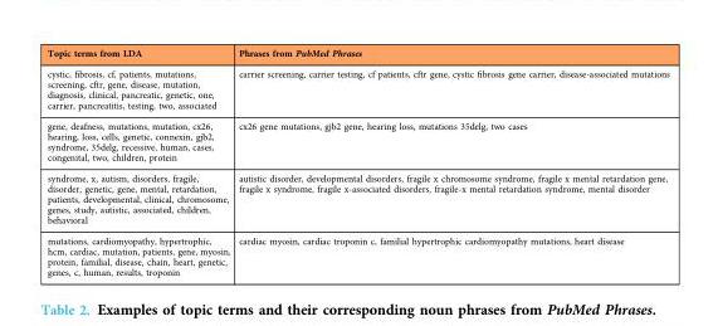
<table><thead><tr><td>Topic terms from LDA</td><td>Phrases from PubMed Phrases</td></tr></thead><tbody><tr><td>cystic, fibrosis, cf, patients, mutations, screening, cftr, gene, disease, mutation, diagnosis, clinical, pancreatic, genetic, one, carrier, pancreatitis, testing, two, associated</td><td>carrier screening, carrier testing, cf patients, cftr gene, cystic fibrosis gene carrier, disease-associated mutations</td></tr><tr><td>gene, deafness, mutations, mutation, cx26, hearing, loss, cells, genetic, connexin, gjb2, syndrome, 35delg, recessive, human, cases, congenital, two, children, protein</td><td>cx26 gene mutations, gjb2 gene, hearing loss, mutations 35delg, two cases</td></tr><tr><td>syndrome, x, autism, disorders, fragile, disorder, genetic, gene, mental, retardation, patients, developmental, clinical, chromosome, genes, study, autistic, associated, children, behavioral</td><td>autistic disorder, developmental disorders, fragile x chromosome syndrome, fragile x mental retardation gene, fragile x syndrome, fragile x-associated disorders, fragile-x mental retardation syndrome, mental disorder</td></tr><tr><td>mutations, cardiomyopathy, hypertrophic, hcm, cardiac, mutation, patients, gene, myosin, protein, familial, disease, chain, heart, genetic, genes, c, human, results, troponin</td><td>cardiac myosin, cardiac troponin c, familial hypertrophic cardiomyopathy mutations, heart disease</td></tr></tbody></table>